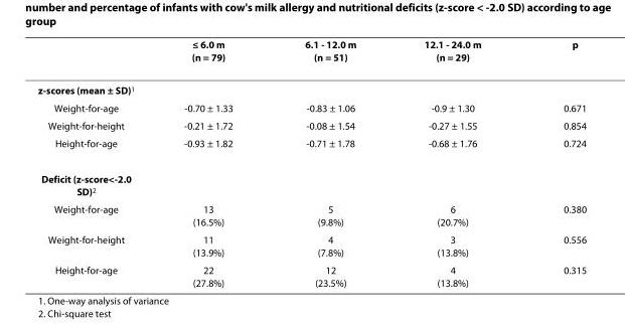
<table><thead><tr><td></td><td>≤ 6.0 m (n = 79)</td><td>6.1 - 12.0 m (n = 51)</td><td>12.1 - 24.0 m (n = 29)</td><td>p</td></tr></thead><tbody><tr><td colspan="5">z-scores (mean ± SD)<sup>1</sup></td></tr><tr><td>Weight-for-age</td><td>-0.70 ± 1.33</td><td>-0.83 ± 1.06</td><td>-0.9 ± 1.30</td><td>0.671</td></tr><tr><td>Weight-for-height</td><td>-0.21 ± 1.72</td><td>-0.08 ± 1.54</td><td>-0.27 ± 1.55</td><td>0.854</td></tr><tr><td>Height-for-age</td><td>-0.93 ± 1.82</td><td>-0.71 ± 1.78</td><td>-0.68 ± 1.76</td><td>0.724</td></tr><tr><td colspan="5">Deficit (z-score&lt;-2.0 SD)<sup>2</sup></td></tr><tr><td>Weight-for-age</td><td>13 (16.5%)</td><td>5 (9.8%)</td><td>6 (20.7%)</td><td>0.380</td></tr><tr><td>Weight-for-height</td><td>11 (13.9%)</td><td>4 (7.8%)</td><td>3 (13.8%)</td><td>0.556</td></tr><tr><td>Height-for-age</td><td>22 (27.8%)</td><td>12 (23.5%)</td><td>4 (13.8%)</td><td>0.315</td></tr></tbody></table>